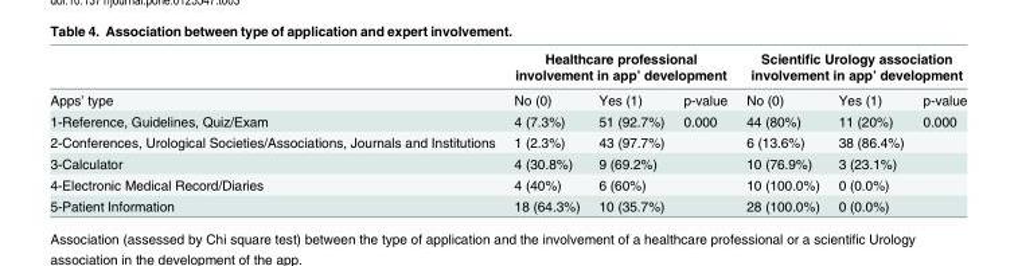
<table><thead><tr><td rowspan="2">Apps’ type</td><td colspan="3">Healthcare professional involvement in app’ development</td><td colspan="3">Scientific Urology association involvement in app’ development</td></tr><tr><td>No (0)</td><td>Yes (1)</td><td>p-value</td><td>No (0)</td><td>Yes (1)</td><td>p-value</td></tr></thead><tbody><tr><td>1-Reference, Guidelines, Quiz/Exam</td><td>4 (7.3%)</td><td>51 (92.7%)</td><td>0.000</td><td>44 (80%)</td><td>11 (20%)</td><td>0.000</td></tr><tr><td>2-Conferences, Urological Societies/Associations, Journals and Institutions</td><td>1 (2.3%)</td><td>43 (97.7%)</td><td></td><td>6 (13.6%)</td><td>38 (86.4%)</td><td></td></tr><tr><td>3-Calculator</td><td>4 (30.8%)</td><td>9 (69.2%)</td><td></td><td>10 (76.9%)</td><td>3 (23.1%)</td><td></td></tr><tr><td>4-Electronic Medical Record/Diaries</td><td>4 (40%)</td><td>6 (60%)</td><td></td><td>10 (100.0%)</td><td>0 (0.0%)</td><td></td></tr><tr><td>5-Patient Information</td><td>18 (64.3%)</td><td>10 (35.7%)</td><td></td><td>28 (100.0%)</td><td>0 (0.0%)</td><td></td></tr></tbody></table>